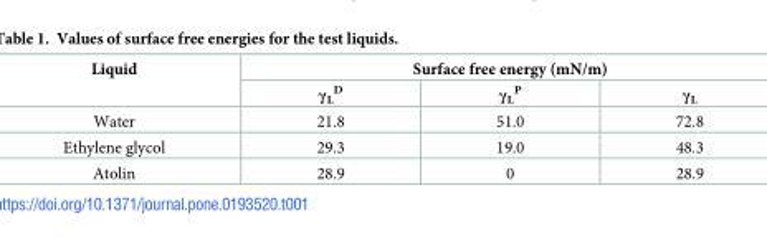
<table><thead><tr><td rowspan="2">Liquid</td><td colspan="3">Surface free energy (mN/m)</td></tr><tr><td>γ<sub>L</sub> <sup>D</sup></td><td>γ<sub>L</sub> <sup>P</sup></td><td>γ<sub>L</sub></td></tr></thead><tbody><tr><td>Water</td><td>21.8</td><td>51.0</td><td>72.8</td></tr><tr><td>Ethylene glycol</td><td>29.3</td><td>19.0</td><td>48.3</td></tr><tr><td>Atolin</td><td>28.9</td><td>0</td><td>28.9</td></tr></tbody></table>